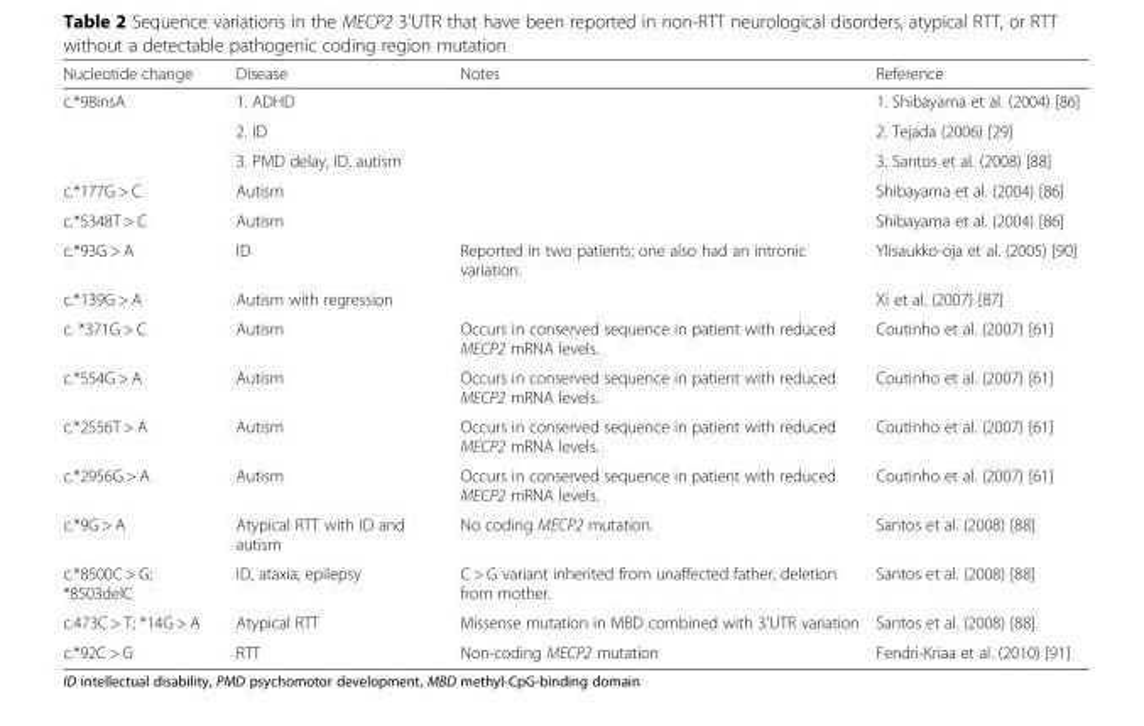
<table><thead><tr><td>Nucleotide change</td><td>Disease</td><td>Notes</td><td>Reference</td></tr></thead><tbody><tr><td rowspan="3">c.*98insA</td><td>1. ADHD</td><td></td><td>1. Shibayama et al. (2004) [86]</td></tr><tr><td>2. ID</td><td></td><td>2. Tejada (2006) [29]</td></tr><tr><td>3. PMD delay, ID, autism</td><td></td><td>3. Santos et al. (2008) [88]</td></tr><tr><td>c.*177G &gt; C</td><td>Autism</td><td></td><td>Shibayama et al. (2004) [86]</td></tr><tr><td>c.*5348T &gt; C</td><td>Autism</td><td></td><td>Shibayama et al. (2004) [86]</td></tr><tr><td>c.*93G &gt; A</td><td>ID</td><td>Reported in two patients; one also had an intronic variation.</td><td>Ylisaukko-oja et al. (2005) [90]</td></tr><tr><td>c.*139G &gt; A</td><td>Autism with regression</td><td></td><td>Xi et al. (2007) [87]</td></tr><tr><td>c. *371G &gt; C</td><td>Autism</td><td>Occurs in conserved sequence in patient with reduced MECP2 mRNA levels.</td><td>Coutinho et al. (2007) [61]</td></tr><tr><td>c.*554G &gt; A</td><td>Autism</td><td>Occurs in conserved sequence in patient with reduced MECP2 mRNA levels.</td><td>Coutinho et al. (2007) [61]</td></tr><tr><td>c.*2556T &gt; A</td><td>Autism</td><td>Occurs in conserved sequence in patient with reduced MECP2 mRNA levels.</td><td>Coutinho et al. (2007) [61]</td></tr><tr><td>c.*2956G &gt; A</td><td>Autism</td><td>Occurs in conserved sequence in patient with reduced MECP2 mRNA levels.</td><td>Coutinho et al. (2007) [61]</td></tr><tr><td>c.*9G &gt; A</td><td>Atypical RTT with ID and autism</td><td>No coding MECP2 mutation.</td><td>Santos et al. (2008) [88]</td></tr><tr><td>c.*8500C &gt; G; *8503delC</td><td>ID, ataxia, epilepsy</td><td>C &gt; G variant inherited from unaffected father, deletion from mother.</td><td>Santos et al. (2008) [88]</td></tr><tr><td>c.473C &gt; T; *14G &gt; A</td><td>Atypical RTT</td><td>Missense mutation in MBD combined with 3&#x27;UTR variation</td><td>Santos et al. (2008) [88]</td></tr><tr><td>c.*92C &gt; G</td><td>RTT</td><td>Non-coding MECP2 mutation</td><td>Fendri-Kriaa et al. (2010) [91]</td></tr></tbody></table>